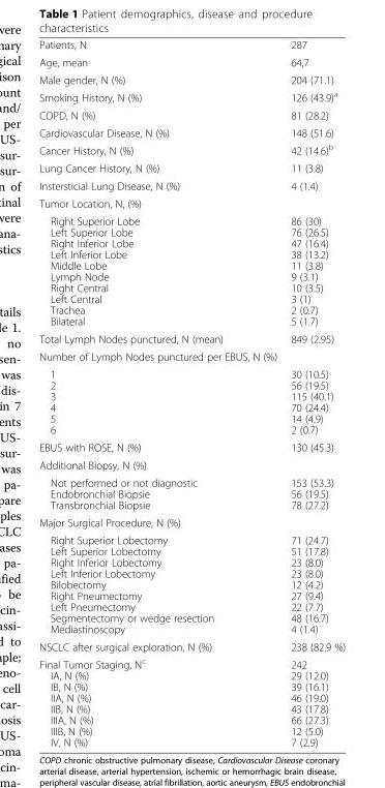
<table><tbody><tr><td>Patients, N</td><td>287</td></tr><tr><td>Age, mean</td><td>64,7</td></tr><tr><td>Male gender, N (%)</td><td>204 (71.1)</td></tr><tr><td>Smoking History, N (%)</td><td>126 (43.9)<sup>a</sup></td></tr><tr><td>COPD, N (%)</td><td>81 (28.2)</td></tr><tr><td>Cardiovascular Disease, N (%)</td><td>148 (51.6)</td></tr><tr><td>Cancer History, N (%)</td><td>42 (14.6)<sup>b</sup></td></tr><tr><td>Lung Cancer History, N (%)</td><td>11 (3.8)</td></tr><tr><td>Instersticial Lung Disease, N (%)</td><td>4 (1.4)</td></tr><tr><td colspan="2">Tumor Location, N, (%)</td></tr><tr><td>Right Superior Lobe Left Superior Lobe Right Inferior Lobe Left Inferior Lobe Middle Lobe Lymph Node Right Central Left Central Trachea Bilateral</td><td>86 (30) 76 (26.5) 47 (16.4) 38 (13.2) 11 (3.8) 9 (3.1) 10 (3.5) 3 (1) 2 (0.7) 5 (1.7)</td></tr><tr><td>Total Lymph Nodes punctured, N (mean)</td><td>849 (2.95)</td></tr><tr><td colspan="2">Number of Lymph Nodes punctured per EBUS, N (%)</td></tr><tr><td>1 2 3 4 5 6</td><td>30 (10.5) 56 (19.5) 115 (40.1) 70 (24.4) 14 (4.9) 2 (0.7)</td></tr><tr><td>EBUS with ROSE, N (%)</td><td>130 (45.3)</td></tr><tr><td colspan="2">Additional Biopsy, N (%)</td></tr><tr><td>Not performed or not diagnostic Endobronchial Biopsie Transbronchial Biopsie</td><td>153 (53.3) 56 (19.5) 78 (27.2)</td></tr><tr><td colspan="2">Major Surgical Procedure, N (%)</td></tr><tr><td>Right Superior Lobectomy Left Superior Lobectomy Right Inferior Lobectomy Left Inferior Lobectomy Bilobectomy Right Pneumectomy Left Pneumectomy Segmentectomy or wedge resection Mediastinoscopy</td><td>71 (24.7) 51 (17.8) 23 (8.0) 23 (8.0) 12 (4.2) 27 (9.4) 22 (7.7) 48 (16.7) 4 (1.4)</td></tr><tr><td>NSCLC after surgical exploration, N (%)</td><td>238 (82.9 %)</td></tr><tr><td>Final Tumor Staging, N<sup>c</sup> IA, N (%) IB, N (%) IIA, N (%) IIB, N (%) IIIA, N (%) IIIB, N (%) IV, N (%)</td><td>242 29 (12.0) 39 (16.1) 46 (19.0) 43 (17.8) 66 (27.3) 12 (5.0) 7 (2.9)</td></tr></tbody></table>